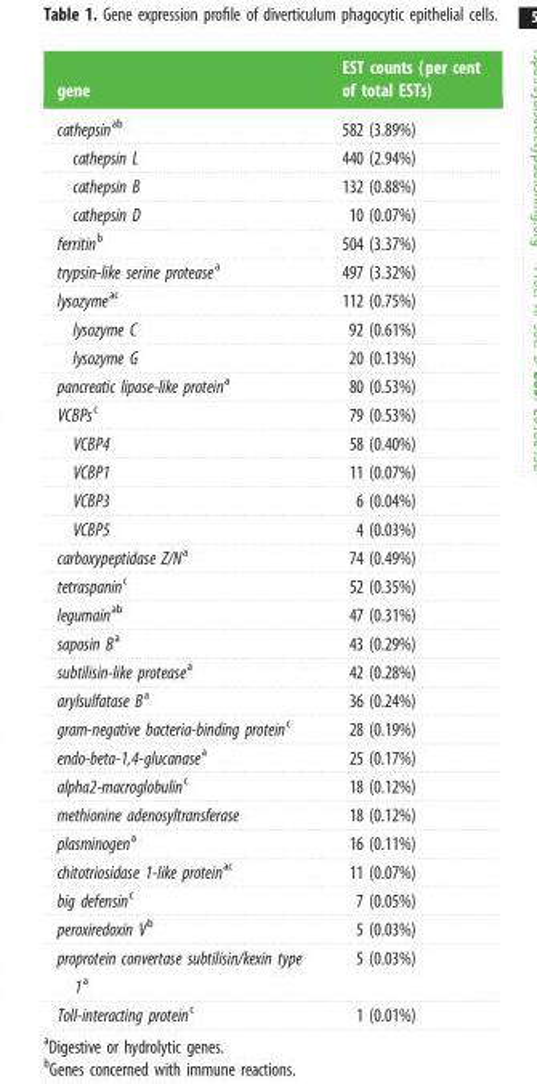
<table><thead><tr><td>gene</td><td>EST counts (per cent of total ESTs)</td></tr></thead><tbody><tr><td>cathepsin<sup>ab</sup></td><td>582 (3.89%)</td></tr><tr><td>cathepsin L</td><td>440 (2.94%)</td></tr><tr><td>cathepsin B</td><td>132 (0.88%)</td></tr><tr><td>cathepsin D</td><td>10 (0.07%)</td></tr><tr><td>ferritin<sup>b</sup></td><td>504 (3.37%)</td></tr><tr><td>trypsin-like serine protease<sup>a</sup></td><td>497 (3.32%)</td></tr><tr><td>lysozyme<sup>ac</sup></td><td>112 (0.75%)</td></tr><tr><td>lysozyme C</td><td>92 (0.61%)</td></tr><tr><td>lysozyme G</td><td>20 (0.13%)</td></tr><tr><td>pancreatic lipase-like protein<sup>a</sup></td><td>80 (0.53%)</td></tr><tr><td>VCBPs<sup>c</sup></td><td>79 (0.53%)</td></tr><tr><td>VCBP4</td><td>58 (0.40%)</td></tr><tr><td>VCBP1</td><td>11 (0.07%)</td></tr><tr><td>VCBP3</td><td>6 (0.04%)</td></tr><tr><td>VCBP5</td><td>4 (0.03%)</td></tr><tr><td>carboxypeptidase Z/N<sup>a</sup></td><td>74 (0.49%)</td></tr><tr><td>tetraspanin<sup>c</sup></td><td>52 (0.35%)</td></tr><tr><td>legumain<sup>ab</sup></td><td>47 (0.31%)</td></tr><tr><td>saposin B<sup>a</sup></td><td>43 (0.29%)</td></tr><tr><td>subtilisin-like protease<sup>a</sup></td><td>42 (0.28%)</td></tr><tr><td>arylsulfatase B<sup>a</sup></td><td>36 (0.24%)</td></tr><tr><td>gram-negative bacteria-binding protein<sup>c</sup></td><td>28 (0.19%)</td></tr><tr><td>endo-beta-1,4-glucanase<sup>a</sup></td><td>25 (0.17%)</td></tr><tr><td>alpha2-macroglobulin<sup>c</sup></td><td>18 (0.12%)</td></tr><tr><td>methionine adenosyltransferase</td><td>18 (0.12%)</td></tr><tr><td>plasminogen<sup>a</sup></td><td>16 (0.11%)</td></tr><tr><td>chitotriosidase 1-like protein<sup>ac</sup></td><td>11 (0.07%)</td></tr><tr><td>big defensin<sup>c</sup></td><td>7 (0.05%)</td></tr><tr><td>peroxiredoxin V<sup>b</sup></td><td>5 (0.03%)</td></tr><tr><td>proprotein convertase subtilisin/kexin type 1<sup>a</sup></td><td>5 (0.03%)</td></tr><tr><td>Toll-interacting protein<sup>c</sup></td><td>1 (0.01%)</td></tr></tbody></table>